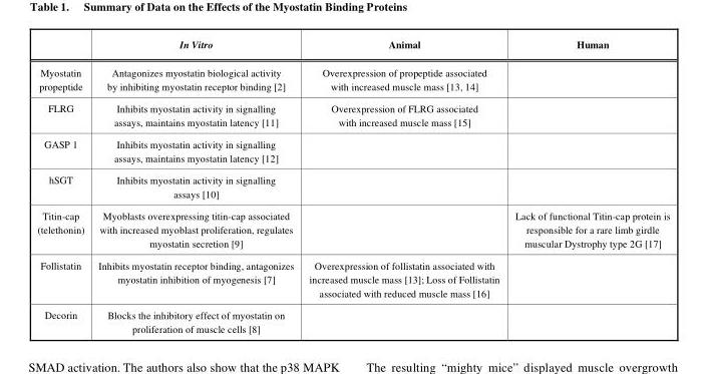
<table><thead><tr><td></td><td>In Vitro</td><td>Animal</td><td>Human</td></tr></thead><tbody><tr><td>Myostatin propeptide</td><td>Antagonizes myostatin biological activity by inhibiting myostatin receptor binding [2]</td><td>Overexpression of propeptide associated with increased muscle mass [13, 14]</td><td></td></tr><tr><td>FLRG</td><td>Inhibits myostatin activity in signalling assays, maintains myostatin latency [11]</td><td>Overexpression of FLRG associated with increased muscle mass [15]</td><td></td></tr><tr><td>GASP 1</td><td>Inhibits myostatin activity in signalling assays, maintains myostatin latency [12]</td><td></td><td></td></tr><tr><td>hSGT</td><td>Inhibits myostatin activity in signalling assays [10]</td><td></td><td></td></tr><tr><td>Titin-cap (telethonin)</td><td>Myoblasts overexpressing titin-cap associated with increased myoblast proliferation, regulates myostatin secretion [9]</td><td></td><td>Lack of functional Titin-cap protein is responsible for a rare limb girdle muscular Dystrophy type 2G [17]</td></tr><tr><td>Follistatin</td><td>Inhibits myostatin receptor binding, antagonizes myostatin inhibition of myogenesis [7]</td><td>Overexpression of follistatin associated with increased muscle mass [13]; Loss of Follistatin associated with reduced muscle mass [16]</td><td></td></tr><tr><td>Decorin</td><td>Blocks the inhibitory effect of myostatin on proliferation of muscle cells [8]</td><td></td><td></td></tr></tbody></table>